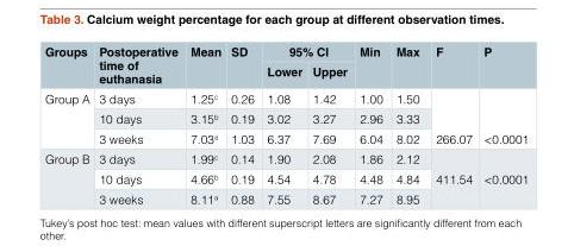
<table><thead><tr><td rowspan="2">Groups</td><td rowspan="2">Postoperative time of euthanasia</td><td rowspan="2">Mean</td><td rowspan="2">SD</td><td colspan="2">95% CI</td><td rowspan="2">Min</td><td rowspan="2">Max</td><td rowspan="2">F</td><td rowspan="2">P</td></tr><tr><td>Lower</td><td>Upper</td></tr></thead><tbody><tr><td rowspan="3">Group A</td><td>3 days</td><td>1.25<sup>c</sup></td><td>0.26</td><td>1.08</td><td>1.42</td><td>1.00</td><td>1.50</td><td rowspan="3">266.07</td><td rowspan="3">&lt;0.0001</td></tr><tr><td>10 days</td><td>3.15<sup>b</sup></td><td>0.19</td><td>3.02</td><td>3.27</td><td>2.96</td><td>3.33</td></tr><tr><td>3 weeks</td><td>7.03<sup>a</sup></td><td>1.03</td><td>6.37</td><td>7.69</td><td>6.04</td><td>8.02</td></tr><tr><td rowspan="3">Group B</td><td>3 days</td><td>1.99<sup>c</sup></td><td>0.14</td><td>1.90</td><td>2.08</td><td>1.86</td><td>2.12</td><td rowspan="3">411.54</td><td rowspan="3">&lt;0.0001</td></tr><tr><td>10 days</td><td>4.66<sup>b</sup></td><td>0.19</td><td>4.54</td><td>4.78</td><td>4.48</td><td>4.84</td></tr><tr><td>3 weeks</td><td>8.11<sup>a</sup></td><td>0.88</td><td>7.55</td><td>8.67</td><td>7.27</td><td>8.95</td></tr></tbody></table>